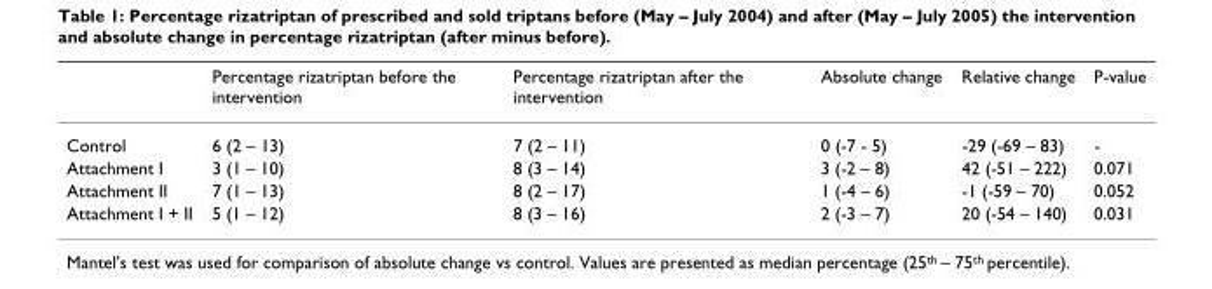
<table><thead><tr><td></td><td>Percentage rizatriptan before the intervention</td><td>Percentage rizatriptan after the intervention</td><td>Absolute change</td><td>Relative change</td><td>P-value</td></tr></thead><tbody><tr><td>Control</td><td>6 (2 – 13)</td><td>7 (2 – 11)</td><td>0 (-7 - 5)</td><td>-29 (-69 – 83)</td><td>-</td></tr><tr><td>Attachment I</td><td>3 (1 – 10)</td><td>8 (3 – 14)</td><td>3 (-2 – 8)</td><td>42 (-51 – 222)</td><td>0.071</td></tr><tr><td>Attachment II</td><td>7 (1 – 13)</td><td>8 (2 – 17)</td><td>1 (-4 – 6)</td><td>-1 (-59 – 70)</td><td>0.052</td></tr><tr><td>Attachment I + II</td><td>5 (1 – 12)</td><td>8 (3 – 16)</td><td>2 (-3 – 7)</td><td>20 (-54 – 140)</td><td>0.031</td></tr></tbody></table>